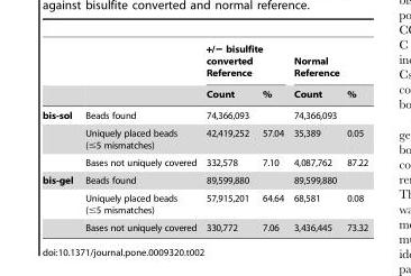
<table><thead><tr><td rowspan="2"></td><td rowspan="2"></td><td colspan="2">+/− bisulfite converted Reference</td><td colspan="2">Normal Reference</td></tr><tr><td>Count</td><td>%</td><td>Count</td><td>%</td></tr></thead><tbody><tr><td rowspan="3">bis-sol</td><td>Beads found</td><td>74,366,093</td><td></td><td>74,366,093</td><td></td></tr><tr><td>Uniquely placed beads (≤5 mismatches)</td><td>42,419,252</td><td>57.04</td><td>35,389</td><td>0.05</td></tr><tr><td>Bases not uniquely covered</td><td>332,578</td><td>7.10</td><td>4,087,762</td><td>87.22</td></tr><tr><td rowspan="3">bis-gel</td><td>Beads found</td><td>89,599,880</td><td></td><td>89,599,880</td><td></td></tr><tr><td>Uniquely placed beads (≤5 mismatches)</td><td>57,915,201</td><td>64.64</td><td>68,581</td><td>0.08</td></tr><tr><td>Bases not uniquely covered</td><td>330,772</td><td>7.06</td><td>3,436,445</td><td>73.32</td></tr></tbody></table>